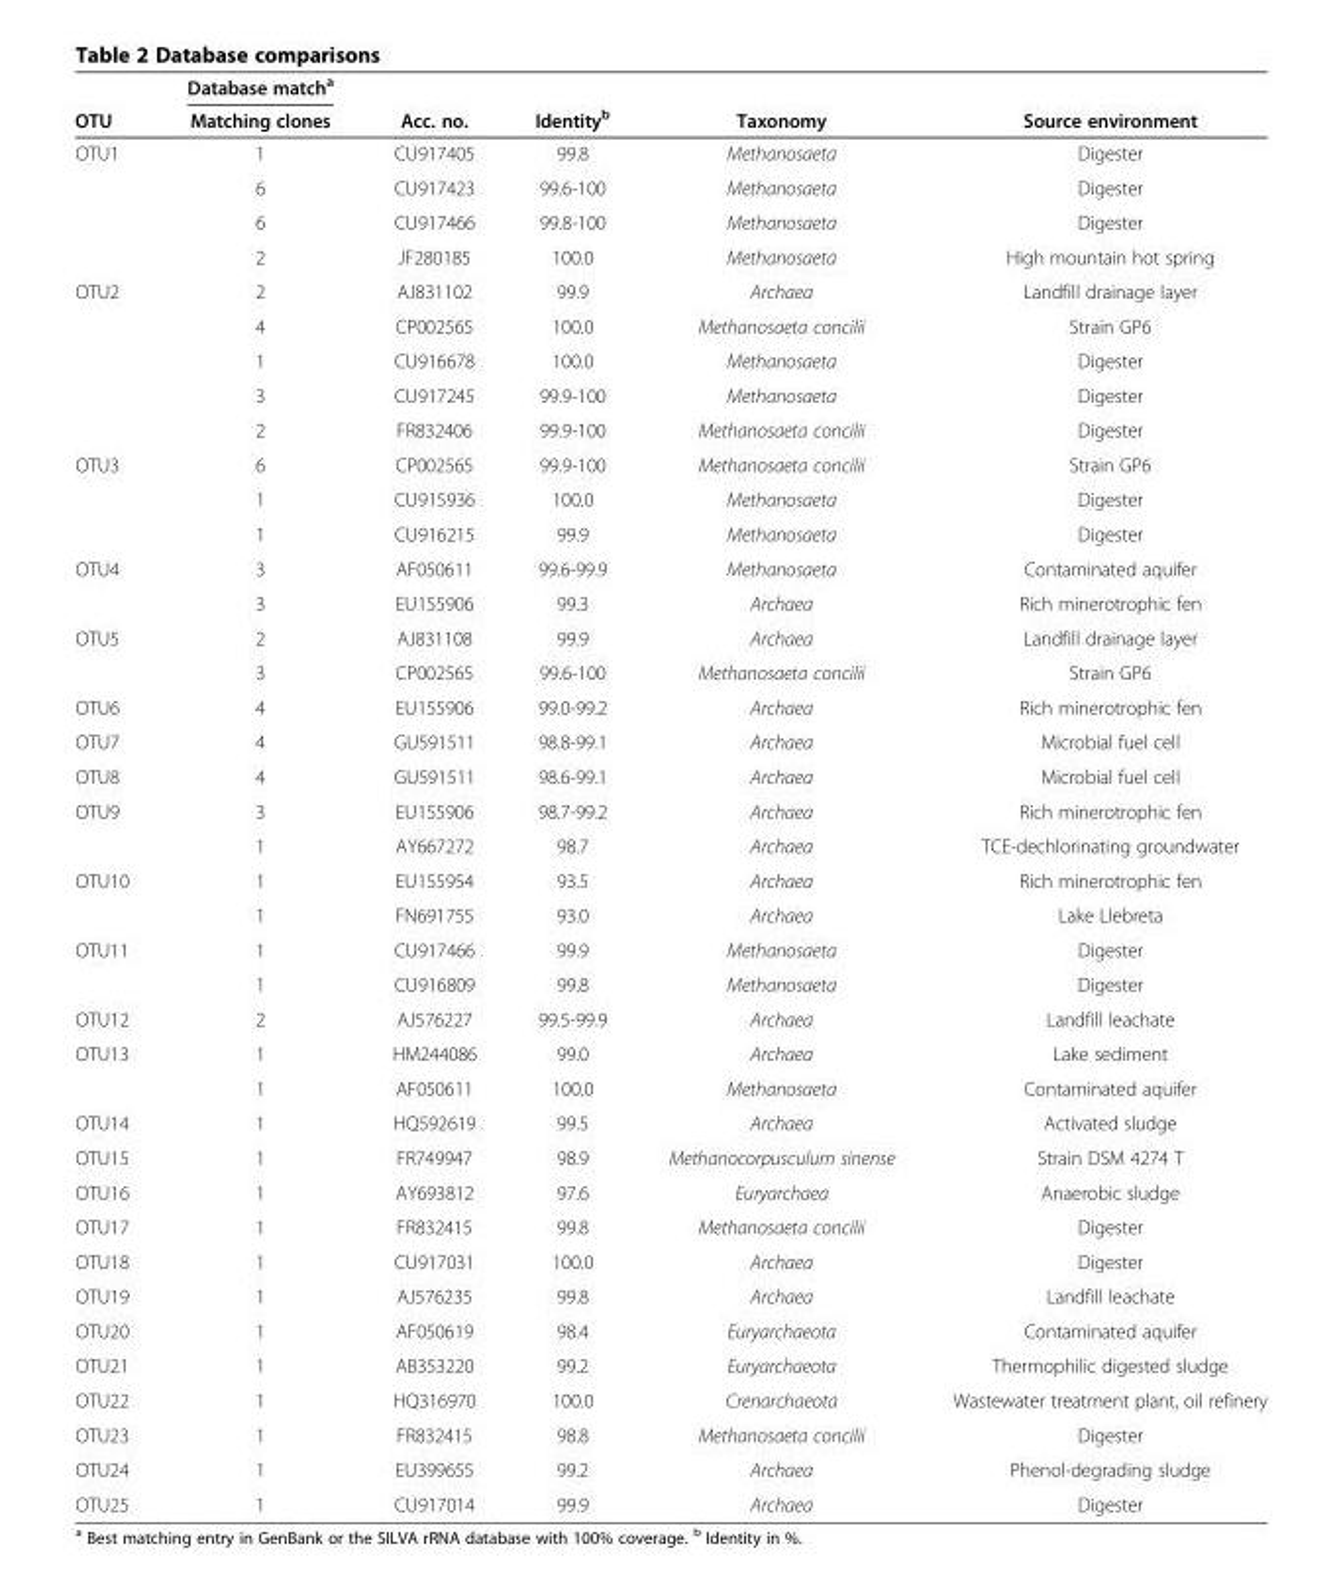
<table><thead><tr><td rowspan="2">OTU</td><td rowspan="2">Database match<sup>a</sup> Matching clones</td><td rowspan="2">Acc. no.</td><td rowspan="2">Identity<sup>b</sup></td><td rowspan="2">Taxonomy</td><td rowspan="2">Source environment</td></tr><tr></tr></thead><tbody><tr><td rowspan="4">OTU1</td><td>1</td><td>CU917405</td><td>99.8</td><td>Methanosaeta</td><td>Digester</td></tr><tr><td>6</td><td>CU917423</td><td>99.6-100</td><td>Methanosaeta</td><td>Digester</td></tr><tr><td>6</td><td>CU917466</td><td>99.8-100</td><td>Methanosaeta</td><td>Digester</td></tr><tr><td>2</td><td>JF280185</td><td>100.0</td><td>Methanosaeta</td><td>High mountain hot spring</td></tr><tr><td rowspan="5">OTU2</td><td>2</td><td>AJ831102</td><td>99.9</td><td>Archaea</td><td>Landfill drainage layer</td></tr><tr><td>4</td><td>CP002565</td><td>100.0</td><td>Methanosaeta concilii</td><td>Strain GP6</td></tr><tr><td>1</td><td>CU916678</td><td>100.0</td><td>Methanosaeta</td><td>Digester</td></tr><tr><td>3</td><td>CU917245</td><td>99.9-100</td><td>Methanosaeta</td><td>Digester</td></tr><tr><td>2</td><td>FR832406</td><td>99.9-100</td><td>Methanosaeta concilii</td><td>Digester</td></tr><tr><td rowspan="3">OTU3</td><td>6</td><td>CP002565</td><td>99.9-100</td><td>Methanosaeta concilii</td><td>Strain GP6</td></tr><tr><td>1</td><td>CU915936</td><td>100.0</td><td>Methanosaeta</td><td>Digester</td></tr><tr><td>1</td><td>CU916215</td><td>99.9</td><td>Methanosaeta</td><td>Digester</td></tr><tr><td rowspan="2">OTU4</td><td>3</td><td>AF050611</td><td>99.6-99.9</td><td>Methanosaeta</td><td>Contaminated aquifer</td></tr><tr><td>3</td><td>EU155906</td><td>99.3</td><td>Archaea</td><td>Rich minerotrophic fen</td></tr><tr><td rowspan="2">OTU5</td><td>2</td><td>AJ831108</td><td>99.9</td><td>Archaea</td><td>Landfill drainage layer</td></tr><tr><td>3</td><td>CP002565</td><td>99.6-100</td><td>Methanosaeta concilii</td><td>Strain GP6</td></tr><tr><td>OTU6</td><td>4</td><td>EU155906</td><td>99.0-99.2</td><td>Archaea</td><td>Rich minerotrophic fen</td></tr><tr><td>OTU7</td><td>4</td><td>GU591511</td><td>98.8-99.1</td><td>Archaea</td><td>Microbial fuel cell</td></tr><tr><td>OTU8</td><td>4</td><td>GU591511</td><td>98.6-99.1</td><td>Archaea</td><td>Microbial fuel cell</td></tr><tr><td rowspan="2">OTU9</td><td>3</td><td>EU155906</td><td>98.7-99.2</td><td>Archaea</td><td>Rich minerotrophic fen</td></tr><tr><td>1</td><td>AY667272</td><td>98.7</td><td>Archaea</td><td>TCE-dechlorinating groundwater</td></tr><tr><td rowspan="2">OTU10</td><td>1</td><td>EU155954</td><td>93.5</td><td>Archaea</td><td>Rich minerotrophic fen</td></tr><tr><td>1</td><td>FN691755</td><td>93.0</td><td>Archaea</td><td>Lake Llebreta</td></tr><tr><td rowspan="2">OTU11</td><td>1</td><td>CU917466</td><td>99.9</td><td>Methanosaeta</td><td>Digester</td></tr><tr><td>1</td><td>CU916809</td><td>99.8</td><td>Methanosaeta</td><td>Digester</td></tr><tr><td>OTU12</td><td>2</td><td>AJ576227</td><td>99.5-99.9</td><td>Archaea</td><td>Landfill leachate</td></tr><tr><td rowspan="2">OTU13</td><td>1</td><td>HM244086</td><td>99.0</td><td>Archaea</td><td>Lake sediment</td></tr><tr><td>1</td><td>AF050611</td><td>100.0</td><td>Methanosaeta</td><td>Contaminated aquifer</td></tr><tr><td>OTU14</td><td>1</td><td>HQ592619</td><td>99.5</td><td>Archaea</td><td>Activated sludge</td></tr><tr><td>OTU15</td><td>1</td><td>FR749947</td><td>98.9</td><td>Methanocorpusculum sinense</td><td>Strain DSM 4274 T</td></tr><tr><td>OTU16</td><td>1</td><td>AY693812</td><td>97.6</td><td>Euryarchaea</td><td>Anaerobic sludge</td></tr><tr><td>OTU17</td><td>1</td><td>FR832415</td><td>99.8</td><td>Methanosaeta concilii</td><td>Digester</td></tr><tr><td>OTU18</td><td>1</td><td>CU917031</td><td>100.0</td><td>Archaea</td><td>Digester</td></tr><tr><td>OTU19</td><td>1</td><td>AJ576235</td><td>99.8</td><td>Archaea</td><td>Landfill leachate</td></tr><tr><td>OTU20</td><td>1</td><td>AF050619</td><td>98.4</td><td>Euryarchaeota</td><td>Contaminated aquifer</td></tr><tr><td>OTU21</td><td>1</td><td>AB353220</td><td>99.2</td><td>Euryarchaeota</td><td>Thermophilic digested sludge</td></tr><tr><td>OTU22</td><td>1</td><td>HQ316970</td><td>100.0</td><td>Crenarchaeota</td><td>Wastewater treatment plant, oil refinery</td></tr><tr><td>OTU23</td><td>1</td><td>FR832415</td><td>98.8</td><td>Methanosaeta concilii</td><td>Digester</td></tr><tr><td>OTU24</td><td>1</td><td>EU399655</td><td>99.2</td><td>Archaea</td><td>Phenol-degrading sludge</td></tr><tr><td>OTU25</td><td>1</td><td>CU917014</td><td>99.9</td><td>Archaea</td><td>Digester</td></tr></tbody></table>